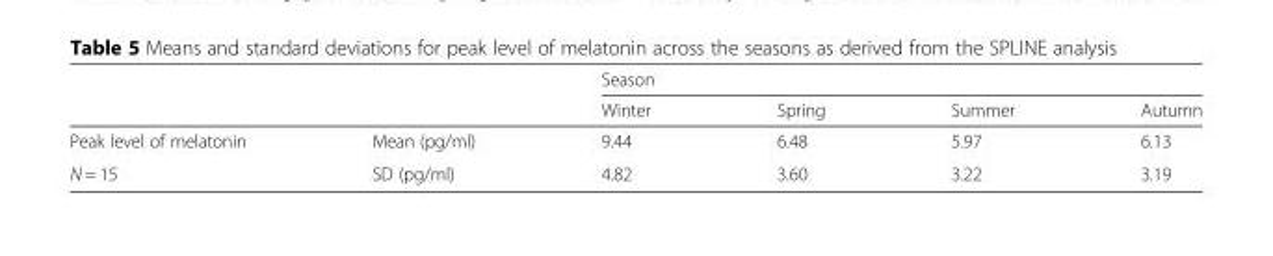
<table><thead><tr><td rowspan="2"></td><td rowspan="2"></td><td colspan="4">Season</td></tr><tr><td>Winter</td><td>Spring</td><td>Summer</td><td>Autumn</td></tr></thead><tbody><tr><td>Peak level of melatonin</td><td>Mean (pg/ml)</td><td>9.44</td><td>6.48</td><td>5.97</td><td>6.13</td></tr><tr><td>N = 15</td><td>SD (pg/ml)</td><td>4.82</td><td>3.60</td><td>3.22</td><td>3.19</td></tr></tbody></table>